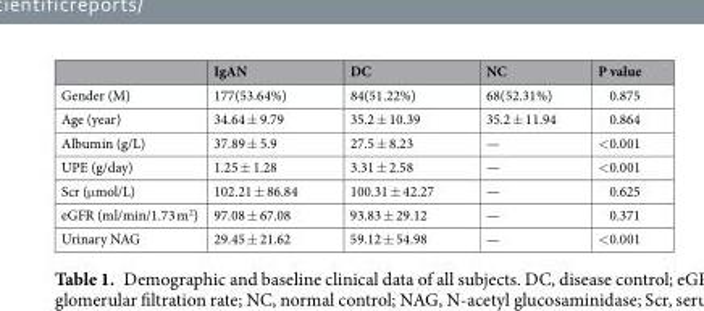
<table><thead><tr><td></td><td>IgAN</td><td>DC</td><td>NC</td><td>P value</td></tr></thead><tbody><tr><td>Gender (M)</td><td>177(53.64%)</td><td>84(51.22%)</td><td>68(52.31%)</td><td>0.875</td></tr><tr><td>Age (year)</td><td>34.64 ± 9.79</td><td>35.2 ± 10.39</td><td>35.2 ± 11.94</td><td>0.864</td></tr><tr><td>Albumin (g/L)</td><td>37.89 ± 5.9</td><td>27.5 ± 8.23</td><td>—</td><td>&lt;0.001</td></tr><tr><td>UPE (g/day)</td><td>1.25 ± 1.28</td><td>3.31 ± 2.58</td><td>—</td><td>&lt;0.001</td></tr><tr><td>Scr (μmol/L)</td><td>102.21 ± 86.84</td><td>100.31 ± 42.27</td><td>—</td><td>0.625</td></tr><tr><td>eGFR (ml/min/1.73 m<sup>2</sup>)</td><td>97.08 ± 67.08</td><td>93.83 ± 29.12</td><td>—</td><td>0.371</td></tr><tr><td>Urinary NAG</td><td>29.45 ± 21.62</td><td>59.12 ± 54.98</td><td>—</td><td>&lt;0.001</td></tr></tbody></table>